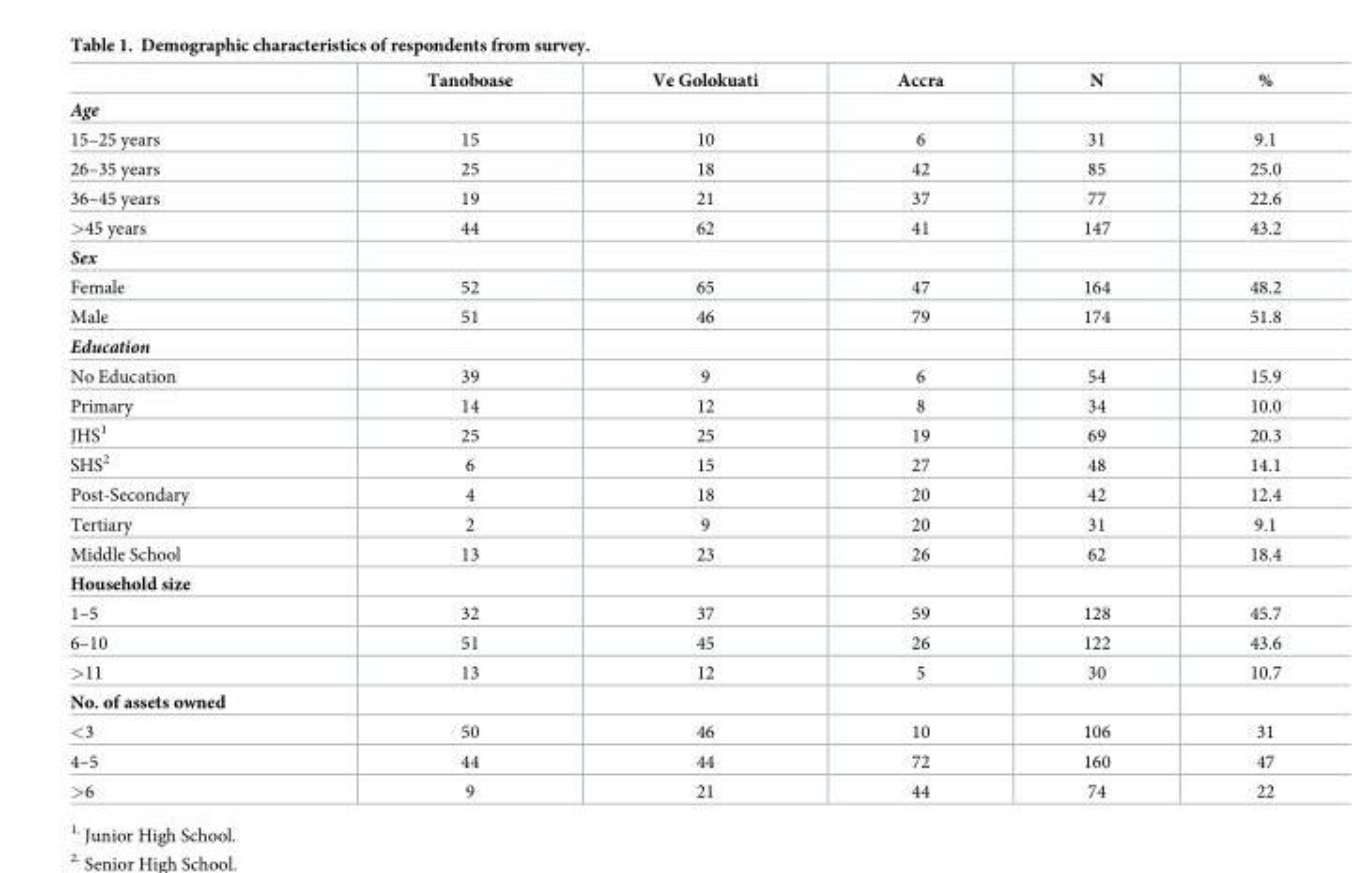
<table><thead><tr><td></td><td>Tanoboase</td><td>Ve Golokuati</td><td>Accra</td><td>N</td><td>%</td></tr></thead><tbody><tr><td colspan="6">Age</td></tr><tr><td>15–25 years</td><td>15</td><td>10</td><td>6</td><td>31</td><td>9.1</td></tr><tr><td>26–35 years</td><td>25</td><td>18</td><td>42</td><td>85</td><td>25.0</td></tr><tr><td>36–45 years</td><td>19</td><td>21</td><td>37</td><td>77</td><td>22.6</td></tr><tr><td>&gt;45 years</td><td>44</td><td>62</td><td>41</td><td>147</td><td>43.2</td></tr><tr><td colspan="6">Sex</td></tr><tr><td>Female</td><td>52</td><td>65</td><td>47</td><td>164</td><td>48.2</td></tr><tr><td>Male</td><td>51</td><td>46</td><td>79</td><td>174</td><td>51.8</td></tr><tr><td colspan="6">Education</td></tr><tr><td>No Education</td><td>39</td><td>9</td><td>6</td><td>54</td><td>15.9</td></tr><tr><td>Primary</td><td>14</td><td>12</td><td>8</td><td>34</td><td>10.0</td></tr><tr><td>JHS<sup>1</sup></td><td>25</td><td>25</td><td>19</td><td>69</td><td>20.3</td></tr><tr><td>SHS<sup>2</sup></td><td>6</td><td>15</td><td>27</td><td>48</td><td>14.1</td></tr><tr><td>Post-Secondary</td><td>4</td><td>18</td><td>20</td><td>42</td><td>12.4</td></tr><tr><td>Tertiary</td><td>2</td><td>9</td><td>20</td><td>31</td><td>9.1</td></tr><tr><td>Middle School</td><td>13</td><td>23</td><td>26</td><td>62</td><td>18.4</td></tr><tr><td colspan="6">Household size</td></tr><tr><td>1–5</td><td>32</td><td>37</td><td>59</td><td>128</td><td>45.7</td></tr><tr><td>6–10</td><td>51</td><td>45</td><td>26</td><td>122</td><td>43.6</td></tr><tr><td>&gt;11</td><td>13</td><td>12</td><td>5</td><td>30</td><td>10.7</td></tr><tr><td colspan="6">No. of assets owned</td></tr><tr><td>&lt;3</td><td>50</td><td>46</td><td>10</td><td>106</td><td>31</td></tr><tr><td>4–5</td><td>44</td><td>44</td><td>72</td><td>160</td><td>47</td></tr><tr><td>&gt;6</td><td>9</td><td>21</td><td>44</td><td>74</td><td>22</td></tr></tbody></table>